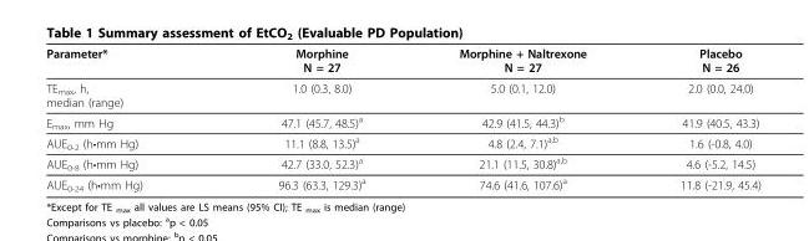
<table><thead><tr><td>Parameter*</td><td>Morphine N = 27</td><td>Morphine + Naltrexone N = 27</td><td>Placebo N = 26</td></tr></thead><tbody><tr><td>TE<sub>max</sub>, h, median (range)</td><td>1.0 (0.3, 8.0)</td><td>5.0 (0.1, 12.0)</td><td>2.0 (0.0, 24.0)</td></tr><tr><td>E<sub>max</sub>, mm Hg</td><td>47.1 (45.7, 48.5)<sup>a</sup></td><td>42.9 (41.5, 44.3)<sup>b</sup></td><td>41.9 (40.5, 43.3)</td></tr><tr><td>AUE<sub>0-2</sub> (h•mm Hg)</td><td>11.1 (8.8, 13.5)<sup>a</sup></td><td>4.8 (2.4, 7.1)<sup>a,b</sup></td><td>1.6 (-0.8, 4.0)</td></tr><tr><td>AUE<sub>0-8</sub> (h•mm Hg)</td><td>42.7 (33.0, 52.3)<sup>a</sup></td><td>21.1 (11.5, 30.8)<sup>a,b</sup></td><td>4.6 (-5.2, 14.5)</td></tr><tr><td>AUE<sub>0-24</sub> (h•mm Hg)</td><td>96.3 (63.3, 129.3)<sup>a</sup></td><td>74.6 (41.6, 107.6)<sup>a</sup></td><td>11.8 (-21.9, 45.4)</td></tr></tbody></table>